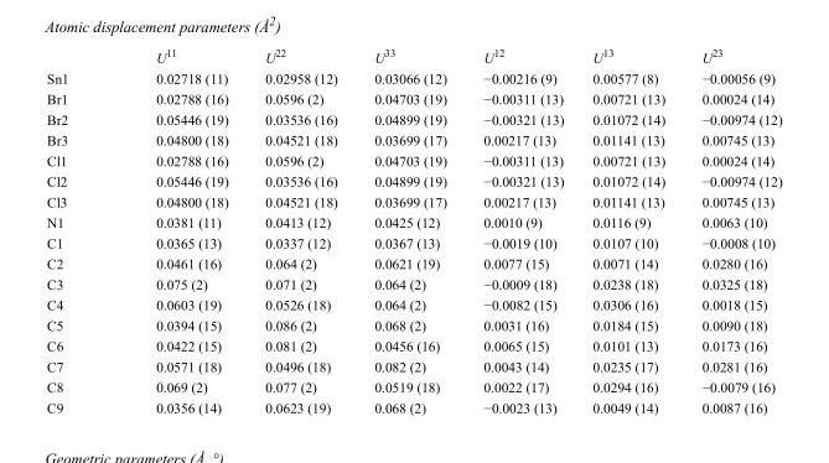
<table><thead><tr><td></td><td>U<sup>11</sup></td><td>U<sup>22</sup></td><td>U<sup>33</sup></td><td>U<sup>12</sup></td><td>U<sup>13</sup></td><td>U<sup>23</sup></td></tr></thead><tbody><tr><td>Sn1</td><td>0.02718 (11)</td><td>0.02958 (12)</td><td>0.03066 (12)</td><td>−0.00216 (9)</td><td>0.00577 (8)</td><td>−0.00056 (9)</td></tr><tr><td>Br1</td><td>0.02788 (16)</td><td>0.0596 (2)</td><td>0.04703 (19)</td><td>−0.00311 (13)</td><td>0.00721 (13)</td><td>0.00024 (14)</td></tr><tr><td>Br2</td><td>0.05446 (19)</td><td>0.03536 (16)</td><td>0.04899 (19)</td><td>−0.00321 (13)</td><td>0.01072 (14)</td><td>−0.00974 (12)</td></tr><tr><td>Br3</td><td>0.04800 (18)</td><td>0.04521 (18)</td><td>0.03699 (17)</td><td>0.00217 (13)</td><td>0.01141 (13)</td><td>0.00745 (13)</td></tr><tr><td>Cl1</td><td>0.02788 (16)</td><td>0.0596 (2)</td><td>0.04703 (19)</td><td>−0.00311 (13)</td><td>0.00721 (13)</td><td>0.00024 (14)</td></tr><tr><td>Cl2</td><td>0.05446 (19)</td><td>0.03536 (16)</td><td>0.04899 (19)</td><td>−0.00321 (13)</td><td>0.01072 (14)</td><td>−0.00974 (12)</td></tr><tr><td>Cl3</td><td>0.04800 (18)</td><td>0.04521 (18)</td><td>0.03699 (17)</td><td>0.00217 (13)</td><td>0.01141 (13)</td><td>0.00745 (13)</td></tr><tr><td>N1</td><td>0.0381 (11)</td><td>0.0413 (12)</td><td>0.0425 (12)</td><td>0.0010 (9)</td><td>0.0116 (9)</td><td>0.0063 (10)</td></tr><tr><td>C1</td><td>0.0365 (13)</td><td>0.0337 (12)</td><td>0.0367 (13)</td><td>−0.0019 (10)</td><td>0.0107 (10)</td><td>−0.0008 (10)</td></tr><tr><td>C2</td><td>0.0461 (16)</td><td>0.064 (2)</td><td>0.0621 (19)</td><td>0.0077 (15)</td><td>0.0071 (14)</td><td>0.0280 (16)</td></tr><tr><td>C3</td><td>0.075 (2)</td><td>0.071 (2)</td><td>0.064 (2)</td><td>−0.0009 (18)</td><td>0.0238 (18)</td><td>0.0325 (18)</td></tr><tr><td>C4</td><td>0.0603 (19)</td><td>0.0526 (18)</td><td>0.064 (2)</td><td>−0.0082 (15)</td><td>0.0306 (16)</td><td>0.0018 (15)</td></tr><tr><td>C5</td><td>0.0394 (15)</td><td>0.086 (2)</td><td>0.068 (2)</td><td>0.0031 (16)</td><td>0.0184 (15)</td><td>0.0090 (18)</td></tr><tr><td>C6</td><td>0.0422 (15)</td><td>0.081 (2)</td><td>0.0456 (16)</td><td>0.0065 (15)</td><td>0.0101 (13)</td><td>0.0173 (16)</td></tr><tr><td>C7</td><td>0.0571 (18)</td><td>0.0496 (18)</td><td>0.082 (2)</td><td>0.0043 (14)</td><td>0.0235 (17)</td><td>0.0281 (16)</td></tr><tr><td>C8</td><td>0.069 (2)</td><td>0.077 (2)</td><td>0.0519 (18)</td><td>0.0022 (17)</td><td>0.0294 (16)</td><td>−0.0079 (16)</td></tr><tr><td>C9</td><td>0.0356 (14)</td><td>0.0623 (19)</td><td>0.068 (2)</td><td>−0.0023 (13)</td><td>0.0049 (14)</td><td>0.0087 (16)</td></tr></tbody></table>